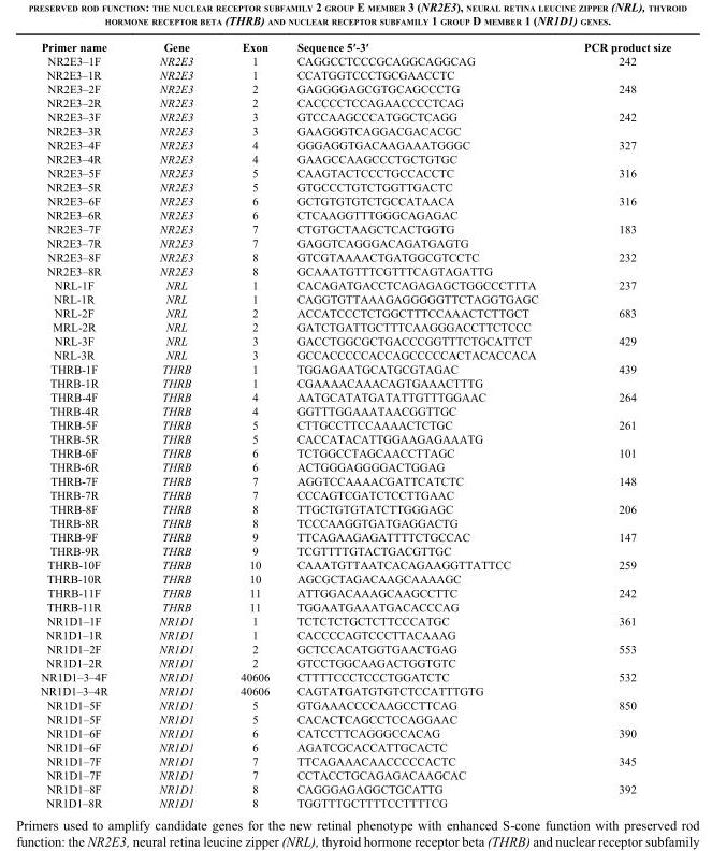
<table><thead><tr><td>Primer name</td><td>Gene</td><td>Exon</td><td>Sequence 5′-3′</td><td>PCR product size</td></tr></thead><tbody><tr><td>NR2E3–1F</td><td>NR2E3</td><td>1</td><td>CAGGCCTCCCGCAGGCAGGCAG</td><td>242</td></tr><tr><td>NR2E3–1R</td><td>NR2E3</td><td>1</td><td>CCATGGTCCCTGCGAACCTC</td><td></td></tr><tr><td>NR2E3–2F</td><td>NR2E3</td><td>2</td><td>GAGGGGAGCGTGCAGCCCTG</td><td>248</td></tr><tr><td>NR2E3–2R</td><td>NR2E3</td><td>2</td><td>CACCCCTCCAGAACCCCTCAG</td><td></td></tr><tr><td>NR2E3–3F</td><td>NR2E3</td><td>3</td><td>GTCCAAGCCCATGGCTCAGG</td><td>242</td></tr><tr><td>NR2E3–3R</td><td>NR2E3</td><td>3</td><td>GAAGGGTCAGGACGACACGC</td><td></td></tr><tr><td>NR2E3–4F</td><td>NR2E3</td><td>4</td><td>GGGAGGTGACAAGAAATGGGC</td><td>327</td></tr><tr><td>NR2E3–4R</td><td>NR2E3</td><td>4</td><td>GAAGCCAAGCCCTGCTGTGC</td><td></td></tr><tr><td>NR2E3–5F</td><td>NR2E3</td><td>5</td><td>CAAGTACTCCCTGCCACCTC</td><td>316</td></tr><tr><td>NR2E3–5R</td><td>NR2E3</td><td>5</td><td>GTGCCCTGTCTGGTTGACTC</td><td></td></tr><tr><td>NR2E3–6F</td><td>NR2E3</td><td>6</td><td>GCTGTGTGTCTGCCATAACA</td><td>316</td></tr><tr><td>NR2E3–6R</td><td>NR2E3</td><td>6</td><td>CTCAAGGTTTGGGCAGAGAC</td><td></td></tr><tr><td>NR2E3–7F</td><td>NR2E3</td><td>7</td><td>CTGTGCTAAGCTCACTGGTG</td><td>183</td></tr><tr><td>NR2E3–7R</td><td>NR2E3</td><td>7</td><td>GAGGTCAGGGACAGATGAGTG</td><td></td></tr><tr><td>NR2E3–8F</td><td>NR2E3</td><td>8</td><td>GTCGTAAAACTGATGGCGTCCTC</td><td>232</td></tr><tr><td>NR2E3–8R</td><td>NR2E3</td><td>8</td><td>GCAAATGTTTCGTTTCAGTAGATTG</td><td></td></tr><tr><td>NRL-1F</td><td>NRL</td><td>1</td><td>CACAGATGACCTCAGAGAGCTGGCCCTTTA</td><td>237</td></tr><tr><td>NRL-1R</td><td>NRL</td><td>1</td><td>CAGGTGTTAAAGAGGGGGTTCTAGGTGAGC</td><td></td></tr><tr><td>NRL-2F</td><td>NRL</td><td>2</td><td>ACCATCCCTCTGGCTTTCCAAACTCTTGCT</td><td>683</td></tr><tr><td>MRL-2R</td><td>NRL</td><td>2</td><td>GATCTGATTGCTTTCAAGGGACCTTCTCCC</td><td></td></tr><tr><td>NRL-3F</td><td>NRL</td><td>3</td><td>GACCTGGCGCTGACCCGGTTTCTGCATTCT</td><td>429</td></tr><tr><td>NRL-3R</td><td>NRL</td><td>3</td><td>GCCACCCCCACCAGCCCCCACTACACCACA</td><td></td></tr><tr><td>THRB-1F</td><td>THRB</td><td>1</td><td>TGGAGAATGCATGCGTAGAC</td><td>439</td></tr><tr><td>THRB-1R</td><td>THRB</td><td>1</td><td>CGAAAACAAACAGTGAAACTTTG</td><td></td></tr><tr><td>THRB-4F</td><td>THRB</td><td>4</td><td>AATGCATATGATATTGTTTGGAAC</td><td>264</td></tr><tr><td>THRB-4R</td><td>THRB</td><td>4</td><td>GGTTTGGAAATAACGGTTGC</td><td></td></tr><tr><td>THRB-5F</td><td>THRB</td><td>5</td><td>CTTGCCTTCCAAAACTCTGC</td><td>261</td></tr><tr><td>THRB-5R</td><td>THRB</td><td>5</td><td>CACCATACATTGGAAGAGAAATG</td><td></td></tr><tr><td>THRB-6F</td><td>THRB</td><td>6</td><td>TCTGGCCTAGCAACCTTAGC</td><td>101</td></tr><tr><td>THRB-6R</td><td>THRB</td><td>6</td><td>ACTGGGAGGGGACTGGAG</td><td></td></tr><tr><td>THRB-7F</td><td>THRB</td><td>7</td><td>AGGTCCAAAACGATTCATCTC</td><td>148</td></tr><tr><td>THRB-7R</td><td>THRB</td><td>7</td><td>CCCAGTCGATCTCCTTGAAC</td><td></td></tr><tr><td>THRB-8F</td><td>THRB</td><td>8</td><td>TTGCTGTGTATCTTGGGAGC</td><td>206</td></tr><tr><td>THRB-8R</td><td>THRB</td><td>8</td><td>TCCCAAGGTGATGAGGACTG</td><td></td></tr><tr><td>THRB-9F</td><td>THRB</td><td>9</td><td>TTCAGAAGAGATTTTCTGCCAC</td><td>147</td></tr><tr><td>THRB-9R</td><td>THRB</td><td>9</td><td>TCGTTTTGTACTGACGTTGC</td><td></td></tr><tr><td>THRB-10F</td><td>THRB</td><td>10</td><td>CAAATGTTAATCACAGAAGGTTATTCC</td><td>259</td></tr><tr><td>THRB-10R</td><td>THRB</td><td>10</td><td>AGCGCTAGACAAGCAAAAGC</td><td></td></tr><tr><td>THRB-11F</td><td>THRB</td><td>11</td><td>ATTGGACAAAGCAAGCCTTC</td><td>242</td></tr><tr><td>THRB-11R</td><td>THRB</td><td>11</td><td>TGGAATGAAATGACACCCAG</td><td></td></tr><tr><td>NR1D1–1F</td><td>NR1D1</td><td>1</td><td>TCTCTCTGCTCTTCCCATGC</td><td>361</td></tr><tr><td>NR1D1–1R</td><td>NR1D1</td><td>1</td><td>CACCCCAGTCCCTTACAAAG</td><td></td></tr><tr><td>NR1D1–2F</td><td>NR1D1</td><td>2</td><td>GCTCCACATGGTGAACTGAG</td><td>553</td></tr><tr><td>NR1D1–2R</td><td>NR1D1</td><td>2</td><td>GTCCTGGCAAGACTGGTGTC</td><td></td></tr><tr><td>NR1D1–3–4F</td><td>NR1D1</td><td>40606</td><td>CTTTTCCCTCCCTGGATCTC</td><td>532</td></tr><tr><td>NR1D1–3–4R</td><td>NR1D1</td><td>40606</td><td>CAGTATGATGTGTCTCCATTTGTG</td><td></td></tr><tr><td>NR1D1–5F</td><td>NR1D1</td><td>5</td><td>GTGAAACCCCAAGCCTTCAG</td><td>850</td></tr><tr><td>NR1D1–5F</td><td>NR1D1</td><td>5</td><td>CACACTCAGCCTCCAGGAAC</td><td></td></tr><tr><td>NR1D1–6F</td><td>NR1D1</td><td>6</td><td>CATCCTTCAGGGCCACAG</td><td>390</td></tr><tr><td>NR1D1–6F</td><td>NR1D1</td><td>6</td><td>AGATCGCACCATTGCACTC</td><td></td></tr><tr><td>NR1D1–7F</td><td>NR1D1</td><td>7</td><td>TTCAGAAACAACCCCCACTC</td><td>345</td></tr><tr><td>NR1D1–7F</td><td>NR1D1</td><td>7</td><td>CCTACCTGCAGAGACAAGCAC</td><td></td></tr><tr><td>NR1D1–8F</td><td>NR1D1</td><td>8</td><td>CAGGGAGAGGCTGCATTG</td><td>392</td></tr><tr><td>NR1D1–8R</td><td>NR1D1</td><td>8</td><td>TGGTTTGCTTTTCCTTTTCG</td><td></td></tr></tbody></table>